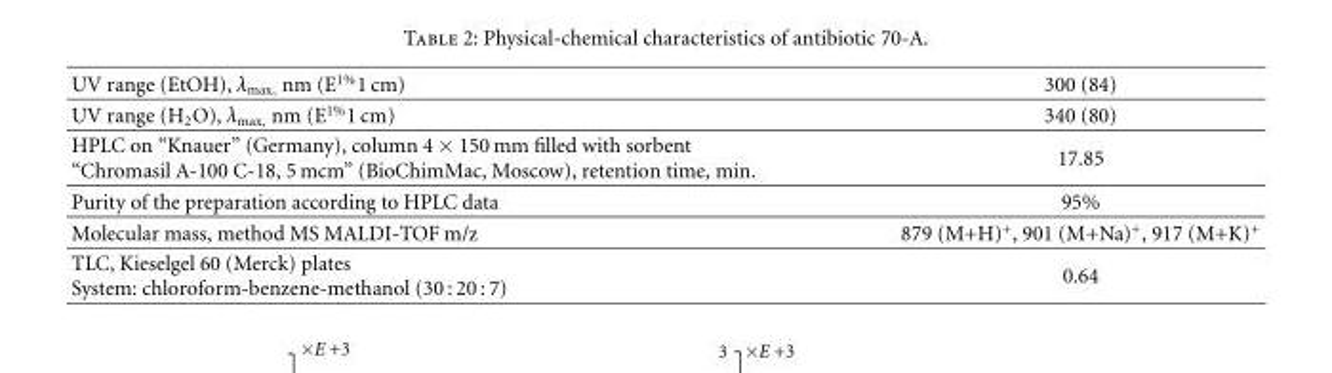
<table><tbody><tr><td>UV range (EtOH), λ<sub>max,</sub> nm (E<sup>1%</sup>1 cm)</td><td>300 (84)</td></tr><tr><td>UV range (H<sub>2</sub>O), λ<sub>max,</sub> nm (E<sup>1%</sup>1 cm)</td><td>340 (80)</td></tr><tr><td>HPLC on “Knauer” (Germany), column 4 × 150 mm filled with sorbent “Chromasil A-100 C-18, 5 mcm” (BioChimMac, Moscow), retention time, min.</td><td>17.85</td></tr><tr><td>Purity of the preparation according to HPLC data</td><td>95%</td></tr><tr><td>Molecular mass, method MS MALDI-TOF m/z</td><td>879 (M+H)<sup>+</sup>, 901 (M+Na)<sup>+</sup>, 917 (M+K)<sup>+</sup></td></tr><tr><td>TLC, Kieselgel 60 (Merck) plates System: chloroform-benzene-methanol (30 : 20 : 7)</td><td>0.64</td></tr></tbody></table>